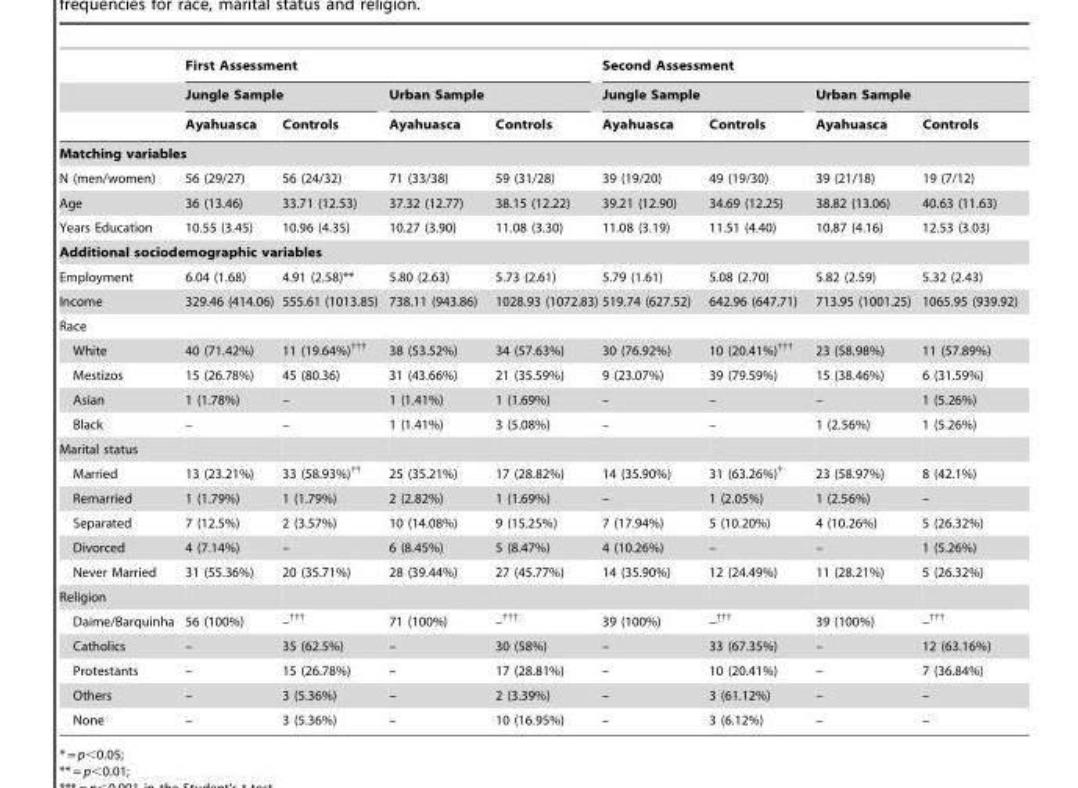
<table><thead><tr><td rowspan="3"></td><td colspan="4">First Assessment</td><td colspan="4">Second Assessment</td></tr><tr><td colspan="2">Jungle Sample</td><td colspan="2">Urban Sample</td><td colspan="2">Jungle Sample</td><td colspan="2">Urban Sample</td></tr><tr><td>Ayahuasca</td><td>Controls</td><td>Ayahuasca</td><td>Controls</td><td>Ayahuasca</td><td>Controls</td><td>Ayahuasca</td><td>Controls</td></tr></thead><tbody><tr><td colspan="9">Matching variables</td></tr><tr><td>N (men/women)</td><td>56 (29/27)</td><td>56 (24/32)</td><td>71 (33/38)</td><td>59 (31/28)</td><td>39 (19/20)</td><td>49 (19/30)</td><td>39 (21/18)</td><td>19 (7/12)</td></tr><tr><td>Age</td><td>36 (13.46)</td><td>33.71 (12.53)</td><td>37.32 (12.77)</td><td>38.15 (12.22)</td><td>39.21 (12.90)</td><td>34.69 (12.25)</td><td>38.82 (13.06)</td><td>40.63 (11.63)</td></tr><tr><td>Years Education</td><td>10.55 (3.45)</td><td>10.96 (4.35)</td><td>10.27 (3.90)</td><td>11.08 (3.30)</td><td>11.08 (3.19)</td><td>11.51 (4.40)</td><td>10.87 (4.16)</td><td>12.53 (3.03)</td></tr><tr><td colspan="9">Additional sociodemographic variables</td></tr><tr><td>Employment</td><td>6.04 (1.68)</td><td>4.91 (2.58)**</td><td>5.80 (2.63)</td><td>5.73 (2.61)</td><td>5.79 (1.61)</td><td>5.08 (2.70)</td><td>5.82 (2.59)</td><td>5.32 (2.43)</td></tr><tr><td>Income</td><td>329.46 (414.06)</td><td>555.61 (1013.85)</td><td>738.11 (943.86)</td><td>1028.93 (1072.83)</td><td>519.74 (627.52)</td><td>642.96 (647.71)</td><td>713.95 (1001.25)</td><td>1065.95 (939.92)</td></tr><tr><td colspan="9">Race</td></tr><tr><td>White</td><td>40 (71.42%)</td><td>11 (19.64%)†††</td><td>38 (53.52%)</td><td>34 (57.63%)</td><td>30 (76.92%)</td><td>10 (20.41%)†††</td><td>23 (58.98%)</td><td>11 (57.89%)</td></tr><tr><td>Mestizos</td><td>15 (26.78%)</td><td>45 (80.36)</td><td>31 (43.66%)</td><td>21 (35.59%)</td><td>9 (23.07%)</td><td>39 (79.59%)</td><td>15 (38.46%)</td><td>6 (31.59%)</td></tr><tr><td>Asian</td><td>1 (1.78%)</td><td>–</td><td>1 (1.41%)</td><td>1 (1.69%)</td><td>–</td><td>–</td><td>–</td><td>1 (5.26%)</td></tr><tr><td>Black</td><td>–</td><td>–</td><td>1 (1.41%)</td><td>3 (5.08%)</td><td>–</td><td>–</td><td>1 (2.56%)</td><td>1 (5.26%)</td></tr><tr><td colspan="9">Marital status</td></tr><tr><td>Married</td><td>13 (23.21%)</td><td>33 (58.93%)††</td><td>25 (35.21%)</td><td>17 (28.82%)</td><td>14 (35.90%)</td><td>31 (63.26%)†</td><td>23 (58.97%)</td><td>8 (42.1%)</td></tr><tr><td>Remarried</td><td>1 (1.79%)</td><td>1 (1.79%)</td><td>2 (2.82%)</td><td>1 (1.69%)</td><td>–</td><td>1 (2.05%)</td><td>1 (2.56%)</td><td>–</td></tr><tr><td>Separated</td><td>7 (12.5%)</td><td>2 (3.57%)</td><td>10 (14.08%)</td><td>9 (15.25%)</td><td>7 (17.94%)</td><td>5 (10.20%)</td><td>4 (10.26%)</td><td>5 (26.32%)</td></tr><tr><td>Divorced</td><td>4 (7.14%)</td><td>–</td><td>6 (8.45%)</td><td>5 (8.47%)</td><td>4 (10.26%)</td><td>–</td><td>–</td><td>1 (5.26%)</td></tr><tr><td>Never Married</td><td>31 (55.36%)</td><td>20 (35.71%)</td><td>28 (39.44%)</td><td>27 (45.77%)</td><td>14 (35.90%)</td><td>12 (24.49%)</td><td>11 (28.21%)</td><td>5 (26.32%)</td></tr><tr><td colspan="9">Religion</td></tr><tr><td>Daime/Barquinha</td><td>56 (100%)</td><td>–†††</td><td>71 (100%)</td><td>–†††</td><td>39 (100%)</td><td>–†††</td><td>39 (100%)</td><td>–†††</td></tr><tr><td>Catholics</td><td>–</td><td>35 (62.5%)</td><td>–</td><td>30 (58%)</td><td>–</td><td>33 (67.35%)</td><td>–</td><td>12 (63.16%)</td></tr><tr><td>Protestants</td><td>–</td><td>15 (26.78%)</td><td>–</td><td>17 (28.81%)</td><td>–</td><td>10 (20.41%)</td><td>–</td><td>7 (36.84%)</td></tr><tr><td>Others</td><td>–</td><td>3 (5.36%)</td><td>–</td><td>2 (3.39%)</td><td>–</td><td>3 (61.12%)</td><td>–</td><td>–</td></tr><tr><td>None</td><td>–</td><td>3 (5.36%)</td><td>–</td><td>10 (16.95%)</td><td>–</td><td>3 (6.12%)</td><td>–</td><td>–</td></tr></tbody></table>